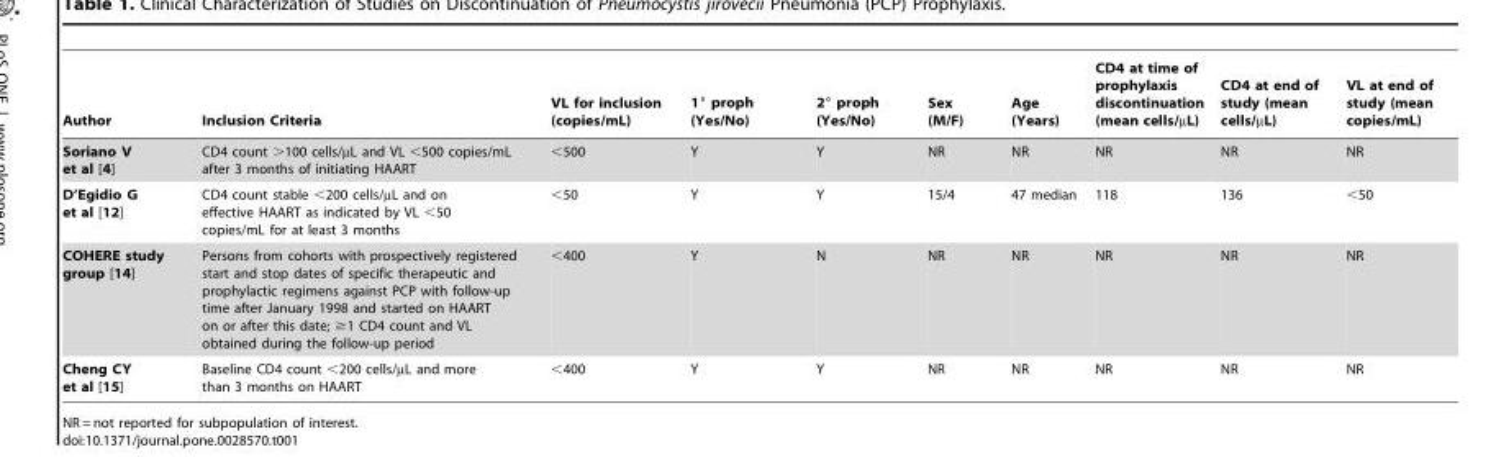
<table><thead><tr><td>Author</td><td>Inclusion Criteria</td><td>VL for inclusion (copies/mL)</td><td>1° proph (Yes/No)</td><td>2° proph (Yes/No)</td><td>Sex (M/F)</td><td>Age (Years)</td><td>CD4 at time of prophylaxis discontinuation (mean cells/µL)</td><td>CD4 at end of study (mean cells/µL)</td><td>VL at end of study (mean copies/mL)</td></tr></thead><tbody><tr><td>Soriano V et al [4]</td><td>CD4 count &gt;100 cells/µL and VL &lt;500 copies/mL after 3 months of initiating HAART</td><td>&lt;500</td><td>Y</td><td>Y</td><td>NR</td><td>NR</td><td>NR</td><td>NR</td><td>NR</td></tr><tr><td>D’Egidio G et al [12]</td><td>CD4 count stable &lt;200 cells/µL and on effective HAART as indicated by VL &lt;50 copies/mL for at least 3 months</td><td>&lt;50</td><td>Y</td><td>Y</td><td>15/4</td><td>47 median</td><td>118</td><td>136</td><td>&lt;50</td></tr><tr><td>COHERE study group [14]</td><td>Persons from cohorts with prospectively registered start and stop dates of specific therapeutic and prophylactic regimens against PCP with follow-up time after January 1998 and started on HAART on or after this date; ≥1 CD4 count and VL obtained during the follow-up period</td><td>&lt;400</td><td>Y</td><td>N</td><td>NR</td><td>NR</td><td>NR</td><td>NR</td><td>NR</td></tr><tr><td>Cheng CY et al [15]</td><td>Baseline CD4 count &lt;200 cells/µL and more than 3 months on HAART</td><td>&lt;400</td><td>Y</td><td>Y</td><td>NR</td><td>NR</td><td>NR</td><td>NR</td><td>NR</td></tr></tbody></table>